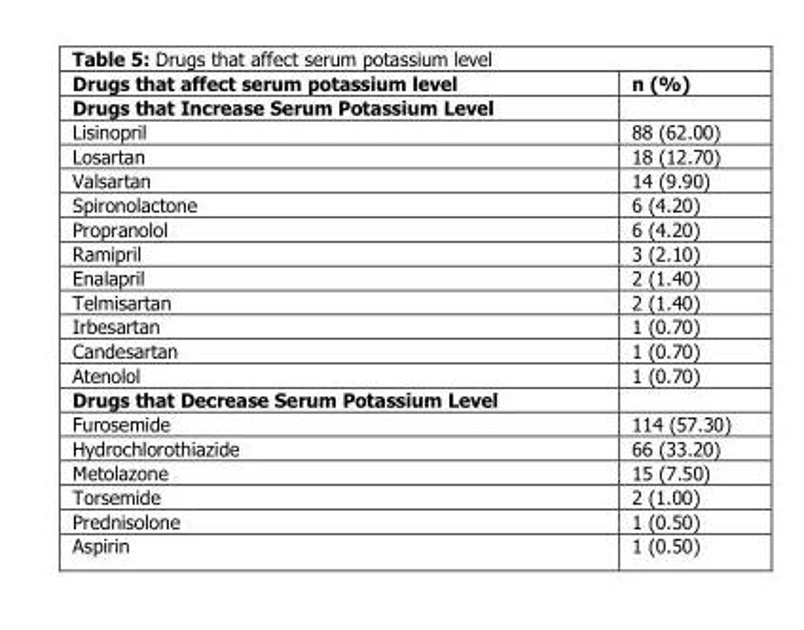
<table><thead><tr><td>Drugs that affect serum potassium level</td><td>n (%)</td></tr></thead><tbody><tr><td colspan="2">Drugs that Increase Serum Potassium Level</td></tr><tr><td>Lisinopril</td><td>88 (62.00)</td></tr><tr><td>Losartan</td><td>18 (12.70)</td></tr><tr><td>Valsartan</td><td>14 (9.90)</td></tr><tr><td>Spironolactone</td><td>6 (4.20)</td></tr><tr><td>Propranolol</td><td>6 (4.20)</td></tr><tr><td>Ramipril</td><td>3 (2.10)</td></tr><tr><td>Enalapril</td><td>2 (1.40)</td></tr><tr><td>Telmisartan</td><td>2 (1.40)</td></tr><tr><td>Irbesartan</td><td>1 (0.70)</td></tr><tr><td>Candesartan</td><td>1 (0.70)</td></tr><tr><td>Atenolol</td><td>1 (0.70)</td></tr><tr><td colspan="2">Drugs that Decrease Serum Potassium Level</td></tr><tr><td>Furosemide</td><td>114 (57.30)</td></tr><tr><td>Hydrochlorothiazide</td><td>66 (33.20)</td></tr><tr><td>Metolazone</td><td>15 (7.50)</td></tr><tr><td>Torsemide</td><td>2 (1.00)</td></tr><tr><td>Prednisolone</td><td>1 (0.50)</td></tr><tr><td>Aspirin</td><td>1 (0.50)</td></tr></tbody></table>